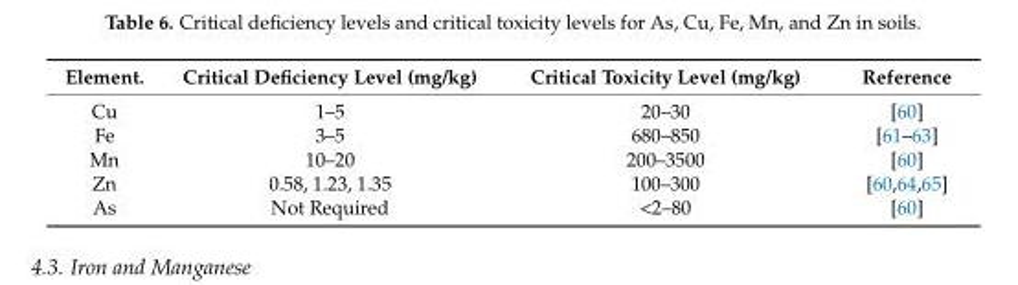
<table><thead><tr><td>Element.</td><td>Critical Deficiency Level (mg/kg)</td><td>Critical Toxicity Level (mg/kg)</td><td>Reference</td></tr></thead><tbody><tr><td>Cu</td><td>1–5</td><td>20–30</td><td>[60]</td></tr><tr><td>Fe</td><td>3–5</td><td>680–850</td><td>[61–63]</td></tr><tr><td>Mn</td><td>10–20</td><td>200–3500</td><td>[60]</td></tr><tr><td>Zn</td><td>0.58, 1.23, 1.35</td><td>100–300</td><td>[60,64,65]</td></tr><tr><td>As</td><td>Not Required</td><td>&lt;2–80</td><td>[60]</td></tr></tbody></table>